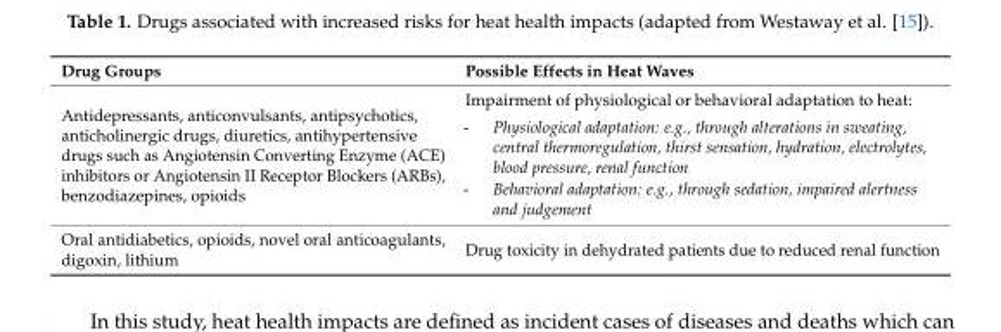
<table><thead><tr><td>Drug Groups</td><td>Possible Effects in Heat Waves</td></tr></thead><tbody><tr><td>Antidepressants, anticonvulsants, antipsychotics, anticholinergic drugs, diuretics, antihypertensive drugs such as Angiotensin Converting Enzyme (ACE) inhibitors or Angiotensin II Receptor Blockers (ARBs), benzodiazepines, opioids</td><td>Impairment of physiological or behavioral adaptation to heat: - Physiological adaptation: e.g., through alterations in sweating, central thermoregulation, thirst sensation, hydration, electrolytes, blood pressure, renal function - Behavioral adaptation: e.g., through sedation, impaired alertness and judgement</td></tr><tr><td>Oral antidiabetics, opioids, novel oral anticoagulants, digoxin, lithium</td><td>Drug toxicity in dehydrated patients due to reduced renal function</td></tr></tbody></table>